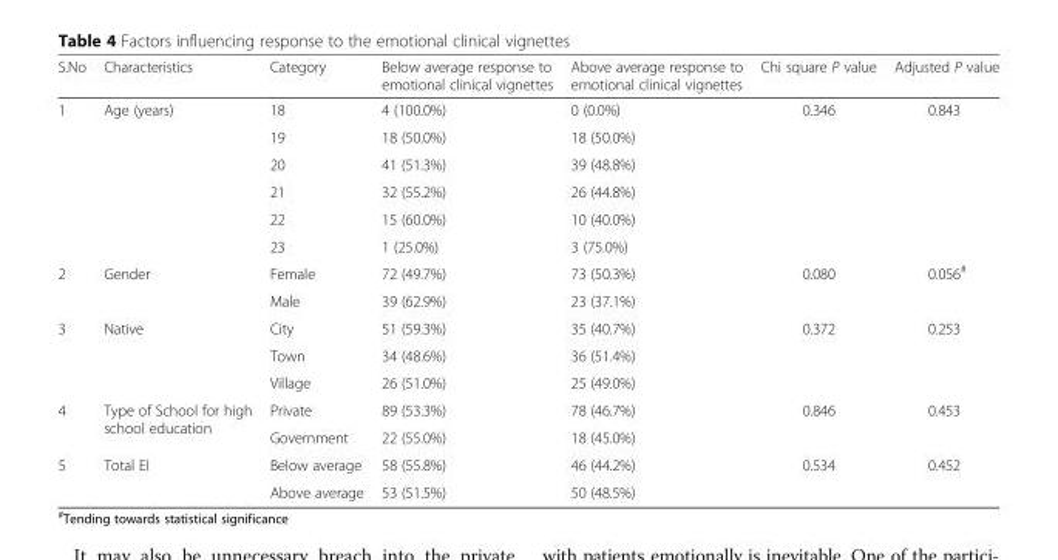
<table><thead><tr><td>S.No</td><td>Characteristics</td><td>Category</td><td>Below average response to emotional clinical vignettes</td><td>Above average response to emotional clinical vignettes</td><td>Chi square P value</td><td>Adjusted P value</td></tr></thead><tbody><tr><td rowspan="6">1</td><td rowspan="6">Age (years)</td><td>18</td><td>4 (100.0%)</td><td>0 (0.0%)</td><td rowspan="6">0.346</td><td rowspan="6">0.843</td></tr><tr><td>19</td><td>18 (50.0%)</td><td>18 (50.0%)</td></tr><tr><td>20</td><td>41 (51.3%)</td><td>39 (48.8%)</td></tr><tr><td>21</td><td>32 (55.2%)</td><td>26 (44.8%)</td></tr><tr><td>22</td><td>15 (60.0%)</td><td>10 (40.0%)</td></tr><tr><td>23</td><td>1 (25.0%)</td><td>3 (75.0%)</td></tr><tr><td rowspan="2">2</td><td rowspan="2">Gender</td><td>Female</td><td>72 (49.7%)</td><td>73 (50.3%)</td><td rowspan="2">0.080</td><td rowspan="2">0.056<sup>#</sup></td></tr><tr><td>Male</td><td>39 (62.9%)</td><td>23 (37.1%)</td></tr><tr><td rowspan="3">3</td><td rowspan="3">Native</td><td>City</td><td>51 (59.3%)</td><td>35 (40.7%)</td><td rowspan="3">0.372</td><td rowspan="3">0.253</td></tr><tr><td>Town</td><td>34 (48.6%)</td><td>36 (51.4%)</td></tr><tr><td>Village</td><td>26 (51.0%)</td><td>25 (49.0%)</td></tr><tr><td rowspan="2">4</td><td rowspan="2">Type of School for high school education</td><td>Private</td><td>89 (53.3%)</td><td>78 (46.7%)</td><td rowspan="2">0.846</td><td rowspan="2">0.453</td></tr><tr><td>Government</td><td>22 (55.0%)</td><td>18 (45.0%)</td></tr><tr><td rowspan="2">5</td><td rowspan="2">Total EI</td><td>Below average</td><td>58 (55.8%)</td><td>46 (44.2%)</td><td rowspan="2">0.534</td><td rowspan="2">0.452</td></tr><tr><td>Above average</td><td>53 (51.5%)</td><td>50 (48.5%)</td></tr></tbody></table>